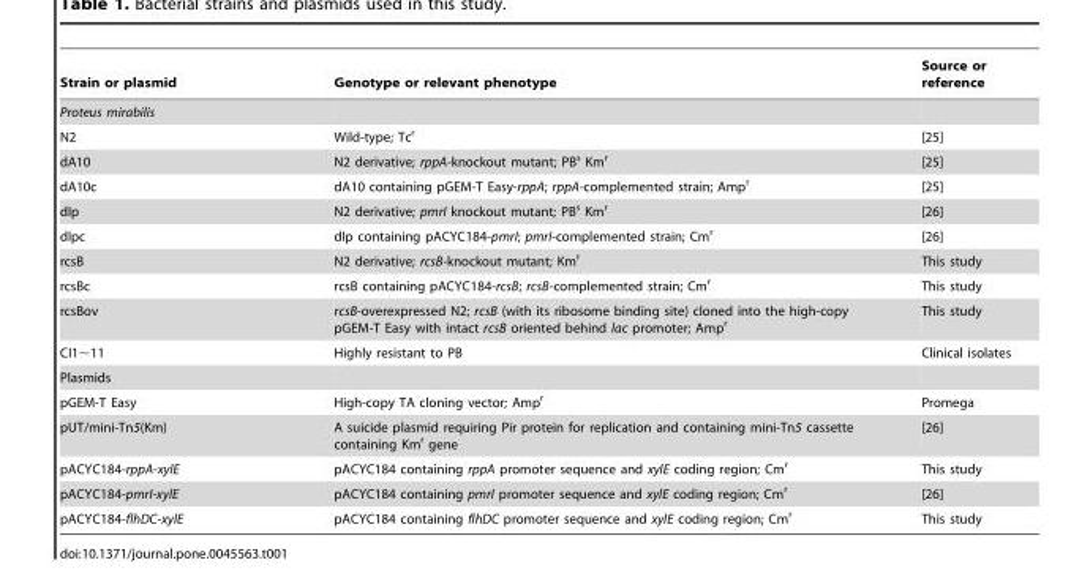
<table><thead><tr><td>Strain or plasmid</td><td>Genotype or relevant phenotype</td><td>Source or reference</td></tr></thead><tbody><tr><td colspan="3">Proteus mirabilis</td></tr><tr><td>N2</td><td>Wild-type; Tc<sup>r</sup></td><td>[25]</td></tr><tr><td>dA10</td><td>N2 derivative; rppA-knockout mutant; PB<sup>s</sup> Km<sup>r</sup></td><td>[25]</td></tr><tr><td>dA10c</td><td>dA10 containing pGEM-T Easy-rppA; rppA-complemented strain; Amp<sup>r</sup></td><td>[25]</td></tr><tr><td>dIp</td><td>N2 derivative; pmrI knockout mutant; PB<sup>s</sup> Km<sup>r</sup></td><td>[26]</td></tr><tr><td>dIpc</td><td>dIp containing pACYC184-pmrI; pmrI-complemented strain; Cm<sup>r</sup></td><td>[26]</td></tr><tr><td>rcsB</td><td>N2 derivative; rcsB-knockout mutant; Km<sup>r</sup></td><td>This study</td></tr><tr><td>rcsBc</td><td>rcsB containing pACYC184-rcsB; rcsB-complemented strain; Cm<sup>r</sup></td><td>This study</td></tr><tr><td>rcsBov</td><td>rcsB-overexpressed N2; rcsB (with its ribosome binding site) cloned into the high-copy pGEM-T Easy with intact rcsB oriented behind lac promoter; Amp<sup>r</sup></td><td>This study</td></tr><tr><td>CI1∼11</td><td>Highly resistant to PB</td><td>Clinical isolates</td></tr><tr><td colspan="3">Plasmids</td></tr><tr><td>pGEM-T Easy</td><td>High-copy TA cloning vector; Amp<sup>r</sup></td><td>Promega</td></tr><tr><td>pUT/mini-Tn5(Km)</td><td>A suicide plasmid requiring Pir protein for replication and containing mini-Tn5 cassette containing Km<sup>r</sup> gene</td><td>[26]</td></tr><tr><td>pACYC184-rppA-xylE</td><td>pACYC184 containing rppA promoter sequence and xylE coding region; Cm<sup>r</sup></td><td>This study</td></tr><tr><td>pACYC184-pmrI-xylE</td><td>pACYC184 containing pmrI promoter sequence and xylE coding region; Cm<sup>r</sup></td><td>[26]</td></tr><tr><td>pACYC184-flhDC-xylE</td><td>pACYC184 containing flhDC promoter sequence and xylE coding region; Cm<sup>r</sup></td><td>This study</td></tr></tbody></table>